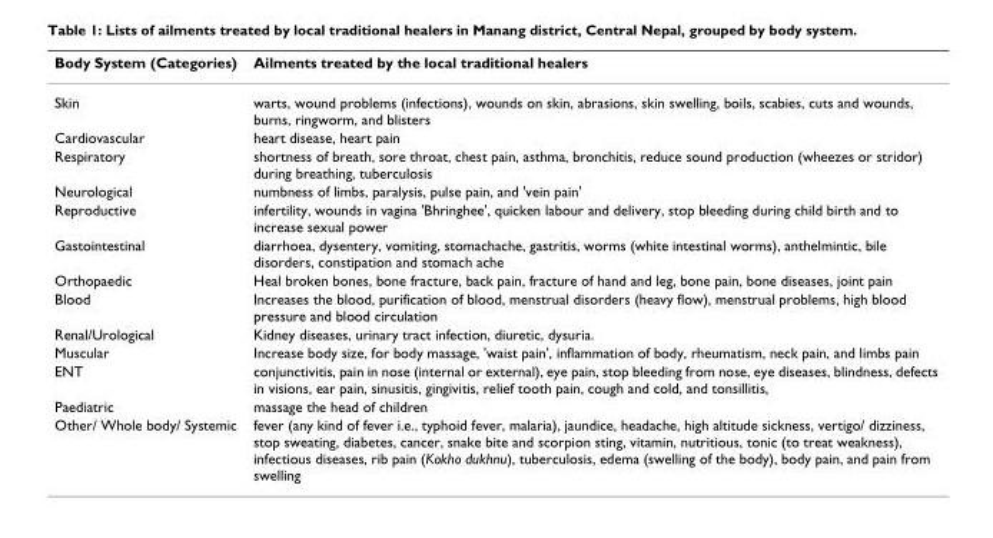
<table><thead><tr><td>Body System (Categories)</td><td>Ailments treated by the local traditional healers</td></tr></thead><tbody><tr><td>Skin</td><td>warts, wound problems (infections), wounds on skin, abrasions, skin swelling, boils, scabies, cuts and wounds, burns, ringworm, and blisters</td></tr><tr><td>Cardiovascular</td><td>heart disease, heart pain</td></tr><tr><td>Respiratory</td><td>shortness of breath, sore throat, chest pain, asthma, bronchitis, reduce sound production (wheezes or stridor) during breathing, tuberculosis</td></tr><tr><td>Neurological</td><td>numbness of limbs, paralysis, pulse pain, and &#x27;vein pain&#x27;</td></tr><tr><td>Reproductive</td><td>infertility, wounds in vagina &#x27;Bhringhee&#x27;, quicken labour and delivery, stop bleeding during child birth and to increase sexual power</td></tr><tr><td>Gastointestinal</td><td>diarrhoea, dysentery, vomiting, stomachache, gastritis, worms (white intestinal worms), anthelmintic, bile disorders, constipation and stomach ache</td></tr><tr><td>Orthopaedic</td><td>Heal broken bones, bone fracture, back pain, fracture of hand and leg, bone pain, bone diseases, joint pain</td></tr><tr><td>Blood</td><td>Increases the blood, purification of blood, menstrual disorders (heavy flow), menstrual problems, high blood pressure and blood circulation</td></tr><tr><td>Renal/Urological</td><td>Kidney diseases, urinary tract infection, diuretic, dysuria.</td></tr><tr><td>Muscular</td><td>Increase body size, for body massage, &#x27;waist pain&#x27;, inflammation of body, rheumatism, neck pain, and limbs pain</td></tr><tr><td>ENT</td><td>conjunctivitis, pain in nose (internal or external), eye pain, stop bleeding from nose, eye diseases, blindness, defects in visions, ear pain, sinusitis, gingivitis, relief tooth pain, cough and cold, and tonsillitis,</td></tr><tr><td>Paediatric</td><td>massage the head of children</td></tr><tr><td>Other/ Whole body/ Systemic</td><td>fever (any kind of fever i.e., typhoid fever, malaria), jaundice, headache, high altitude sickness, vertigo/ dizziness, stop sweating, diabetes, cancer, snake bite and scorpion sting, vitamin, nutritious, tonic (to treat weakness), infectious diseases, rib pain (Kokho dukhnu), tuberculosis, edema (swelling of the body), body pain, and pain from swelling</td></tr></tbody></table>